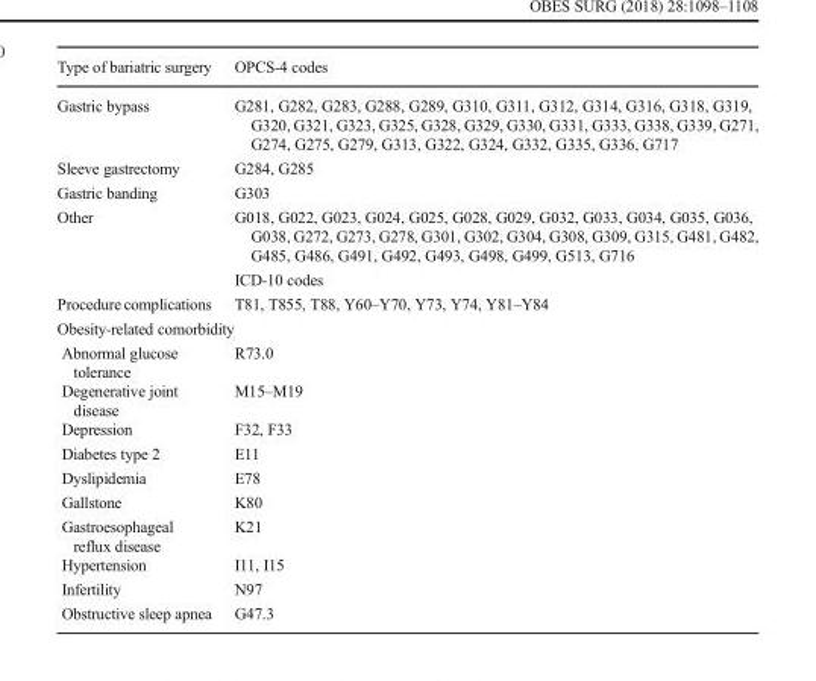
<table><thead><tr><td>Type of bariatric surgery</td><td>OPCS-4 codes</td></tr></thead><tbody><tr><td>Gastric bypass</td><td>G281, G282, G283, G288, G289, G310, G311, G312, G314, G316, G318, G319, G320, G321, G323, G325, G328, G329, G330, G331, G333, G338, G339, G271, G274, G275, G279, G313, G322, G324, G332, G335, G336, G717</td></tr><tr><td>Sleeve gastrectomy</td><td>G284, G285</td></tr><tr><td>Gastric banding</td><td>G303</td></tr><tr><td rowspan="2">Other</td><td>G018, G022, G023, G024, G025, G028, G029, G032, G033, G034, G035, G036, G038, G272, G273, G278, G301, G302, G304, G308, G309, G315, G481, G482, G485, G486, G491, G492, G493, G498, G499, G513, G716</td></tr><tr><td>ICD-10 codes</td></tr><tr><td>Procedure complications</td><td>T81, T855, T88, Y60–Y70, Y73, Y74, Y81–Y84</td></tr><tr><td colspan="2">Obesity-related comorbidity</td></tr><tr><td>Abnormal glucose tolerance</td><td>R73.0</td></tr><tr><td>Degenerative joint disease</td><td>M15–M19</td></tr><tr><td>Depression</td><td>F32, F33</td></tr><tr><td>Diabetes type 2</td><td>E11</td></tr><tr><td>Dyslipidemia</td><td>E78</td></tr><tr><td>Gallstone</td><td>K80</td></tr><tr><td>Gastroesophageal reflux disease</td><td>K21</td></tr><tr><td>Hypertension</td><td>I11, I15</td></tr><tr><td>Infertility</td><td>N97</td></tr><tr><td>Obstructive sleep apnea</td><td>G47.3</td></tr></tbody></table>